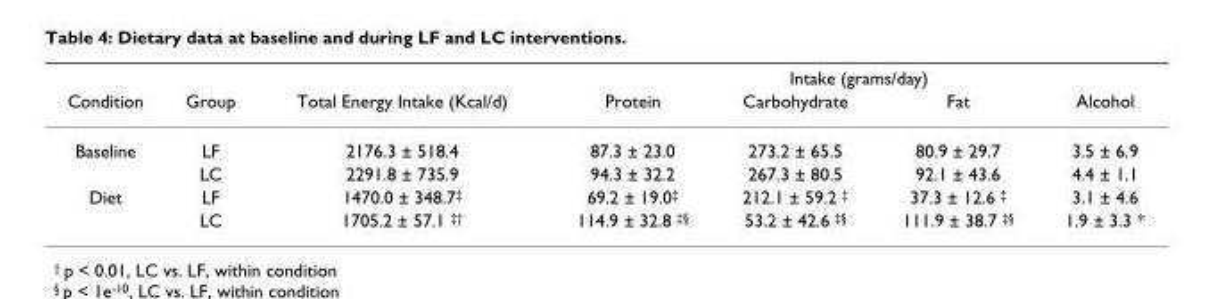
<table><thead><tr><td rowspan="2">Condition</td><td rowspan="2">Group</td><td rowspan="2">Total Energy Intake (Kcal/d)</td><td colspan="4">Intake (grams/day)</td></tr><tr><td>Protein</td><td>Carbohydrate</td><td>Fat</td><td>Alcohol</td></tr></thead><tbody><tr><td rowspan="2">Baseline</td><td>LF</td><td>2176.3 ± 518.4</td><td>87.3 ± 23.0</td><td>273.2 ± 65.5</td><td>80.9 ± 29.7</td><td>3.5 ± 6.9</td></tr><tr><td>LC</td><td>2291.8 ± 735.9</td><td>94.3 ± 32.2</td><td>267.3 ± 80.5</td><td>92.1 ± 43.6</td><td>4.4 ± 1.1</td></tr><tr><td rowspan="2">Diet</td><td>LF</td><td>1470.0 ± 348.7<sup>‡</sup></td><td>69.2 ± 19.0<sup>‡</sup></td><td>212.1 ± 59.2 <sup>‡</sup></td><td>37.3 ± 12.6 <sup>‡</sup></td><td>3.1 ± 4.6</td></tr><tr><td>LC</td><td>1705.2 ± 57.1 <sup>‡†</sup></td><td>114.9 ± 32.8 <sup>‡§</sup></td><td>53.2 ± 42.6 <sup>‡§</sup></td><td>111.9 ± 38.7 <sup>‡§</sup></td><td>1.9 ± 3.3 *</td></tr></tbody></table>